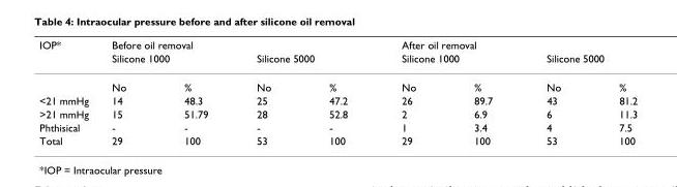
<table><thead><tr><td rowspan="3">IOP*</td><td colspan="4">Before oil removal</td><td colspan="4">After oil removal</td></tr><tr><td colspan="2">Silicone 1000</td><td colspan="2">Silicone 5000</td><td colspan="2">Silicone 1000</td><td colspan="2">Silicone 5000</td></tr><tr><td>No</td><td>%</td><td>No</td><td>%</td><td>No</td><td>%</td><td>No</td><td>%</td></tr></thead><tbody><tr><td>&lt;21 mmHg</td><td>14</td><td>48.3</td><td>25</td><td>47.2</td><td>26</td><td>89.7</td><td>43</td><td>81.2</td></tr><tr><td>&gt;21 mmHg</td><td>15</td><td>51.79</td><td>28</td><td>52.8</td><td>2</td><td>6.9</td><td>6</td><td>11.3</td></tr><tr><td>Phthisical</td><td>-</td><td>-</td><td>-</td><td>-</td><td>1</td><td>3.4</td><td>4</td><td>7.5</td></tr><tr><td>Total</td><td>29</td><td>100</td><td>53</td><td>100</td><td>29</td><td>100</td><td>53</td><td>100</td></tr></tbody></table>